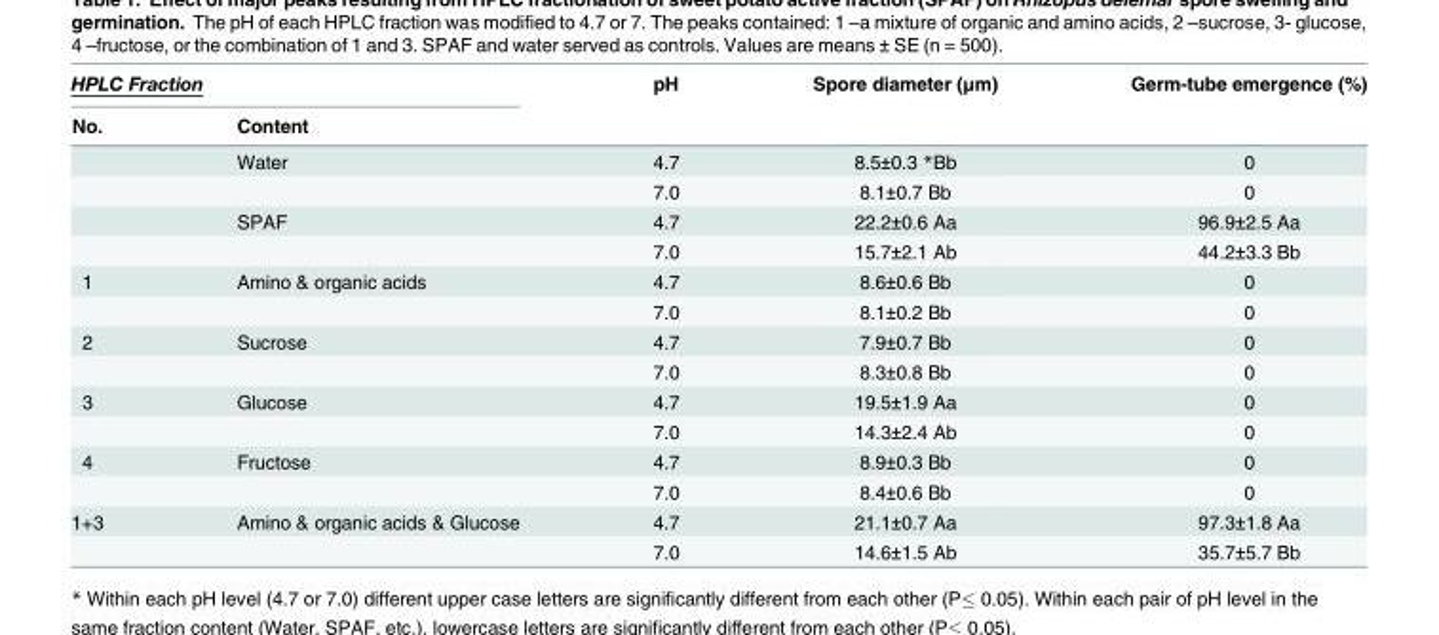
<table><thead><tr><td colspan="2">HPLC Fraction</td><td rowspan="2">pH</td><td rowspan="2">Spore diameter (μm)</td><td rowspan="2">Germ-tube emergence (%)</td></tr><tr><td>No.</td><td>Content</td></tr></thead><tbody><tr><td></td><td>Water</td><td>4.7</td><td>8.5±0.3 *Bb</td><td>0</td></tr><tr><td></td><td></td><td>7.0</td><td>8.1±0.7 Bb</td><td>0</td></tr><tr><td></td><td>SPAF</td><td>4.7</td><td>22.2±0.6 Aa</td><td>96.9±2.5 Aa</td></tr><tr><td></td><td></td><td>7.0</td><td>15.7±2.1 Ab</td><td>44.2±3.3 Bb</td></tr><tr><td rowspan="2">1</td><td>Amino &amp; organic acids</td><td>4.7</td><td>8.6±0.6 Bb</td><td>0</td></tr><tr><td></td><td>7.0</td><td>8.1±0.2 Bb</td><td>0</td></tr><tr><td rowspan="2">2</td><td>Sucrose</td><td>4.7</td><td>7.9±0.7 Bb</td><td>0</td></tr><tr><td></td><td>7.0</td><td>8.3±0.8 Bb</td><td>0</td></tr><tr><td rowspan="2">3</td><td>Glucose</td><td>4.7</td><td>19.5±1.9 Aa</td><td>0</td></tr><tr><td></td><td>7.0</td><td>14.3±2.4 Ab</td><td>0</td></tr><tr><td rowspan="2">4</td><td>Fructose</td><td>4.7</td><td>8.9±0.3 Bb</td><td>0</td></tr><tr><td></td><td>7.0</td><td>8.4±0.6 Bb</td><td>0</td></tr><tr><td rowspan="2">1+3</td><td>Amino &amp; organic acids &amp; Glucose</td><td>4.7</td><td>21.1±0.7 Aa</td><td>97.3±1.8 Aa</td></tr><tr><td></td><td>7.0</td><td>14.6±1.5 Ab</td><td>35.7±5.7 Bb</td></tr></tbody></table>